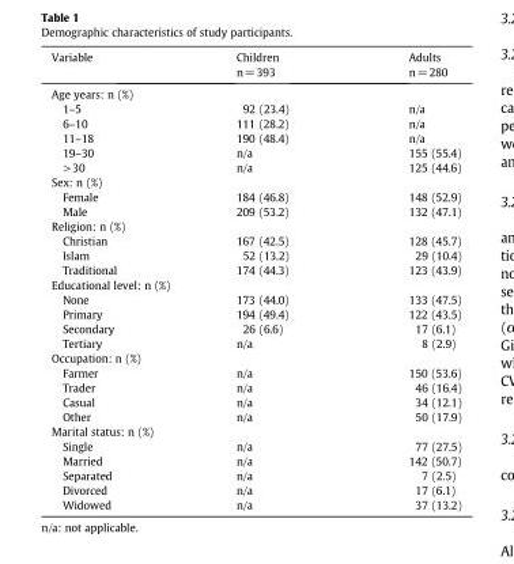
<table><thead><tr><td>Variable</td><td>Children n=393</td><td>Adults n=280</td></tr></thead><tbody><tr><td colspan="3">Age years: n (%)</td></tr><tr><td>1–5</td><td>92 (23.4)</td><td>n/a</td></tr><tr><td>6–10</td><td>111 (28.2)</td><td>n/a</td></tr><tr><td>11–18</td><td>190 (48.4)</td><td>n/a</td></tr><tr><td>19–30</td><td>n/a</td><td>155 (55.4)</td></tr><tr><td>&gt;30</td><td>n/a</td><td>125 (44.6)</td></tr><tr><td colspan="3">Sex: n (%)</td></tr><tr><td>Female</td><td>184 (46.8)</td><td>148 (52.9)</td></tr><tr><td>Male</td><td>209 (53.2)</td><td>132 (47.1)</td></tr><tr><td colspan="3">Religion: n (%)</td></tr><tr><td>Christian</td><td>167 (42.5)</td><td>128 (45.7)</td></tr><tr><td>Islam</td><td>52 (13.2)</td><td>29 (10.4)</td></tr><tr><td>Traditional</td><td>174 (44.3)</td><td>123 (43.9)</td></tr><tr><td colspan="3">Educational level: n (%)</td></tr><tr><td>None</td><td>173 (44.0)</td><td>133 (47.5)</td></tr><tr><td>Primary</td><td>194 (49.4)</td><td>122 (43.5)</td></tr><tr><td>Secondary</td><td>26 (6.6)</td><td>17 (6.1)</td></tr><tr><td>Tertiary</td><td>n/a</td><td>8 (2.9)</td></tr><tr><td colspan="3">Occupation: n (%)</td></tr><tr><td>Farmer</td><td>n/a</td><td>150 (53.6)</td></tr><tr><td>Trader</td><td>n/a</td><td>46 (16.4)</td></tr><tr><td>Casual</td><td>n/a</td><td>34 (12.1)</td></tr><tr><td>Other</td><td>n/a</td><td>50 (17.9)</td></tr><tr><td colspan="3">Marital status: n (%)</td></tr><tr><td>Single</td><td>n/a</td><td>77 (27.5)</td></tr><tr><td>Married</td><td>n/a</td><td>142 (50.7)</td></tr><tr><td>Separated</td><td>n/a</td><td>7 (2.5)</td></tr><tr><td>Divorced</td><td>n/a</td><td>17 (6.1)</td></tr><tr><td>Widowed</td><td>n/a</td><td>37 (13.2)</td></tr></tbody></table>